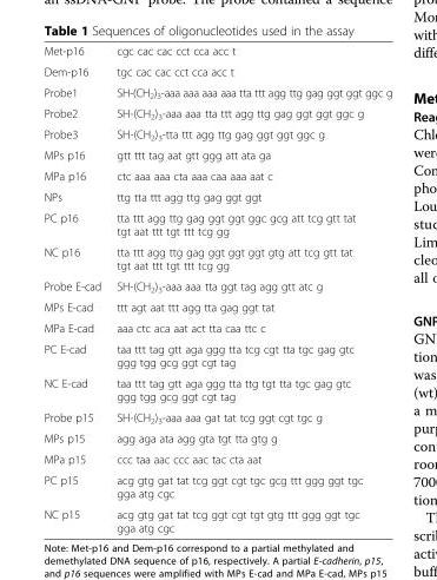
<table><tbody><tr><td>Met-p16</td><td>cgc cac cac cct cca acc t</td></tr><tr><td>Dem-p16</td><td>tgc cac cac cct cca acc t</td></tr><tr><td>Probe1</td><td>SH-(CH<sub>2</sub>)<sub>3</sub>-aaa aaa aaa aaa tta ttt agg ttg gag ggt ggt ggc g</td></tr><tr><td>Probe2</td><td>SH-(CH<sub>2</sub>)<sub>3</sub>-aaa aaa tta ttt agg ttg gag ggt ggt ggc g</td></tr><tr><td>Probe3</td><td>SH-(CH<sub>2</sub>)<sub>3</sub>-tta ttt agg ttg gag ggt ggt ggc g</td></tr><tr><td>MPs p16</td><td>gtt ttt tag aat gtt ggg att ata ga</td></tr><tr><td>MPa p16</td><td>ctc aaa aaa cta aaa caa aaa aat c</td></tr><tr><td>NPs</td><td>ttg tta ttt agg ttg gag ggt ggt</td></tr><tr><td>PC p16</td><td>tta ttt agg ttg gag ggt ggt ggc gcg att tcg gtt tat tgt aat ttt tgt ttt tcg gg</td></tr><tr><td>NC p16</td><td>tta ttt agg ttg gag ggt ggt ggt gtg att tcg gtt tat tgt aat ttt tgt ttt tcg gg</td></tr><tr><td>Probe E-cad</td><td>SH-(CH<sub>2</sub>)<sub>3</sub>-aaa aaa tta ggt tag agg gtt atc g</td></tr><tr><td>MPs E-cad</td><td>ttt agt aat ttt agg tta gag ggt tat</td></tr><tr><td>MPa E-cad</td><td>aaa ctc aca aat act tta caa ttc c</td></tr><tr><td>PC E-cad</td><td>taa ttt tag gtt aga ggg tta tcg cgt tta tgc gag gtc ggg tgg gcg ggt cgt tag</td></tr><tr><td>NC E-cad</td><td>taa ttt tag gtt aga ggg tta ttg tgt tta tgc gag gtc ggg tgg gcg ggt cgt tag</td></tr><tr><td>Probe p15</td><td>SH-(CH<sub>2</sub>)<sub>3</sub>-aaa aaa gat tat tcg ggt cgt tgc g</td></tr><tr><td>MPs p15</td><td>agg aga ata agg gta tgt tta gtg g</td></tr><tr><td>MPa p15</td><td>ccc taa aac ccc aac tac cta aat</td></tr><tr><td>PC p15</td><td>acg gtg gat tat tcg ggt cgt tgc gcg ttt ggg ggt tgc gga atg cgc</td></tr><tr><td>NC p15</td><td>acg gtg gat tat tcg ggt cgt tgt gtg ttt ggg ggt tgc gga atg cgc</td></tr></tbody></table>